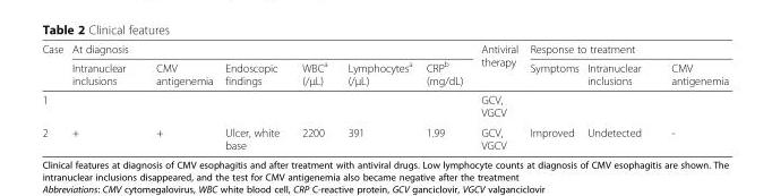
<table><thead><tr><td rowspan="2">Case</td><td colspan="6">At diagnosis</td><td rowspan="2">Antiviral therapy</td><td colspan="3">Response to treatment</td></tr><tr><td>Intranuclear inclusions</td><td>CMV antigenemia</td><td>Endoscopic findings</td><td>WBC<sup>a</sup> (/μL)</td><td>Lymphocytes<sup>a</sup> (/μL)</td><td>CRP<sup>b</sup> (mg/dL)</td><td>Symptoms</td><td>Intranuclear inclusions</td><td>CMV antigenemia</td></tr></thead><tbody><tr><td>1</td><td></td><td></td><td></td><td></td><td></td><td></td><td>GCV, VGCV</td><td></td><td></td><td></td></tr><tr><td>2</td><td>+</td><td>+</td><td>Ulcer, white base</td><td>2200</td><td>391</td><td>1.99</td><td>GCV, VGCV</td><td>Improved</td><td>Undetected</td><td>-</td></tr></tbody></table>